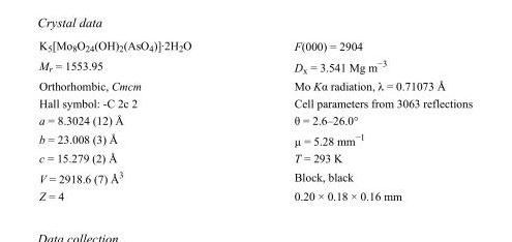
<table><tbody><tr><td>K<sub>5</sub>[Mo<sub>8</sub>O<sub>24</sub>(OH)<sub>2</sub>(AsO<sub>4</sub>)]·2H<sub>2</sub>O</td><td>F(000) = 2904</td></tr><tr><td>M<sub>r</sub> = 1553.95</td><td>D<sub>x</sub> = 3.541 Mg m<sup>−3</sup></td></tr><tr><td>Orthorhombic, Cmcm</td><td>Mo Kα radiation, λ = 0.71073 Å</td></tr><tr><td>Hall symbol: -C 2c 2</td><td>Cell parameters from 3063 reflections</td></tr><tr><td>a = 8.3024 (12) Å</td><td>θ = 2.6–26.0°</td></tr><tr><td>b = 23.008 (3) Å</td><td>µ = 5.28 mm<sup>−1</sup></td></tr><tr><td>c = 15.279 (2) Å</td><td>T = 293 K</td></tr><tr><td>V = 2918.6 (7) Å<sup>3</sup></td><td>Block, black</td></tr><tr><td>Z = 4</td><td>0.20 × 0.18 × 0.16 mm</td></tr></tbody></table>